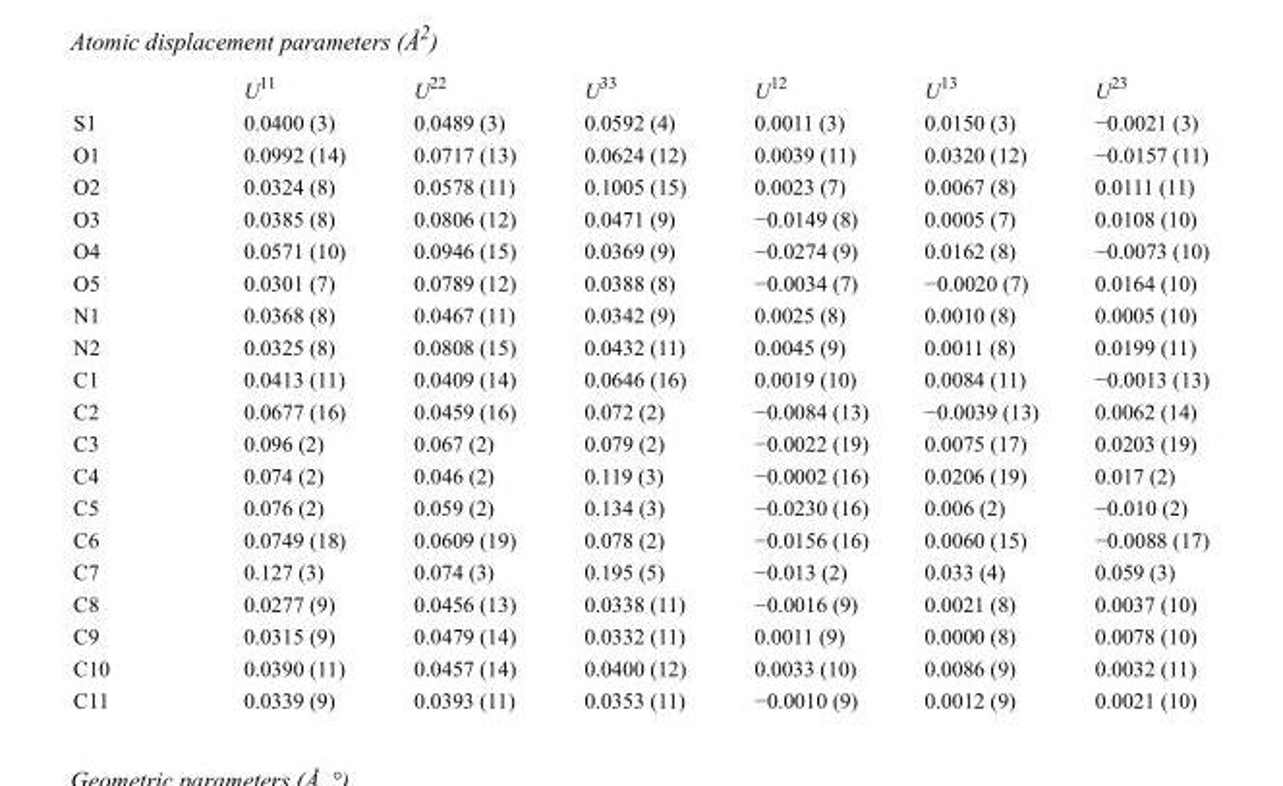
<table><thead><tr><td></td><td>U<sup>11</sup></td><td>U<sup>22</sup></td><td>U<sup>33</sup></td><td>U<sup>12</sup></td><td>U<sup>13</sup></td><td>U<sup>23</sup></td></tr></thead><tbody><tr><td>S1</td><td>0.0400 (3)</td><td>0.0489 (3)</td><td>0.0592 (4)</td><td>0.0011 (3)</td><td>0.0150 (3)</td><td>−0.0021 (3)</td></tr><tr><td>O1</td><td>0.0992 (14)</td><td>0.0717 (13)</td><td>0.0624 (12)</td><td>0.0039 (11)</td><td>0.0320 (12)</td><td>−0.0157 (11)</td></tr><tr><td>O2</td><td>0.0324 (8)</td><td>0.0578 (11)</td><td>0.1005 (15)</td><td>0.0023 (7)</td><td>0.0067 (8)</td><td>0.0111 (11)</td></tr><tr><td>O3</td><td>0.0385 (8)</td><td>0.0806 (12)</td><td>0.0471 (9)</td><td>−0.0149 (8)</td><td>0.0005 (7)</td><td>0.0108 (10)</td></tr><tr><td>O4</td><td>0.0571 (10)</td><td>0.0946 (15)</td><td>0.0369 (9)</td><td>−0.0274 (9)</td><td>0.0162 (8)</td><td>−0.0073 (10)</td></tr><tr><td>O5</td><td>0.0301 (7)</td><td>0.0789 (12)</td><td>0.0388 (8)</td><td>−0.0034 (7)</td><td>−0.0020 (7)</td><td>0.0164 (10)</td></tr><tr><td>N1</td><td>0.0368 (8)</td><td>0.0467 (11)</td><td>0.0342 (9)</td><td>0.0025 (8)</td><td>0.0010 (8)</td><td>0.0005 (10)</td></tr><tr><td>N2</td><td>0.0325 (8)</td><td>0.0808 (15)</td><td>0.0432 (11)</td><td>0.0045 (9)</td><td>0.0011 (8)</td><td>0.0199 (11)</td></tr><tr><td>C1</td><td>0.0413 (11)</td><td>0.0409 (14)</td><td>0.0646 (16)</td><td>0.0019 (10)</td><td>0.0084 (11)</td><td>−0.0013 (13)</td></tr><tr><td>C2</td><td>0.0677 (16)</td><td>0.0459 (16)</td><td>0.072 (2)</td><td>−0.0084 (13)</td><td>−0.0039 (13)</td><td>0.0062 (14)</td></tr><tr><td>C3</td><td>0.096 (2)</td><td>0.067 (2)</td><td>0.079 (2)</td><td>−0.0022 (19)</td><td>0.0075 (17)</td><td>0.0203 (19)</td></tr><tr><td>C4</td><td>0.074 (2)</td><td>0.046 (2)</td><td>0.119 (3)</td><td>−0.0002 (16)</td><td>0.0206 (19)</td><td>0.017 (2)</td></tr><tr><td>C5</td><td>0.076 (2)</td><td>0.059 (2)</td><td>0.134 (3)</td><td>−0.0230 (16)</td><td>0.006 (2)</td><td>−0.010 (2)</td></tr><tr><td>C6</td><td>0.0749 (18)</td><td>0.0609 (19)</td><td>0.078 (2)</td><td>−0.0156 (16)</td><td>0.0060 (15)</td><td>−0.0088 (17)</td></tr><tr><td>C7</td><td>0.127 (3)</td><td>0.074 (3)</td><td>0.195 (5)</td><td>−0.013 (2)</td><td>0.033 (4)</td><td>0.059 (3)</td></tr><tr><td>C8</td><td>0.0277 (9)</td><td>0.0456 (13)</td><td>0.0338 (11)</td><td>−0.0016 (9)</td><td>0.0021 (8)</td><td>0.0037 (10)</td></tr><tr><td>C9</td><td>0.0315 (9)</td><td>0.0479 (14)</td><td>0.0332 (11)</td><td>0.0011 (9)</td><td>0.0000 (8)</td><td>0.0078 (10)</td></tr><tr><td>C10</td><td>0.0390 (11)</td><td>0.0457 (14)</td><td>0.0400 (12)</td><td>0.0033 (10)</td><td>0.0086 (9)</td><td>0.0032 (11)</td></tr><tr><td>C11</td><td>0.0339 (9)</td><td>0.0393 (11)</td><td>0.0353 (11)</td><td>−0.0010 (9)</td><td>0.0012 (9)</td><td>0.0021 (10)</td></tr></tbody></table>